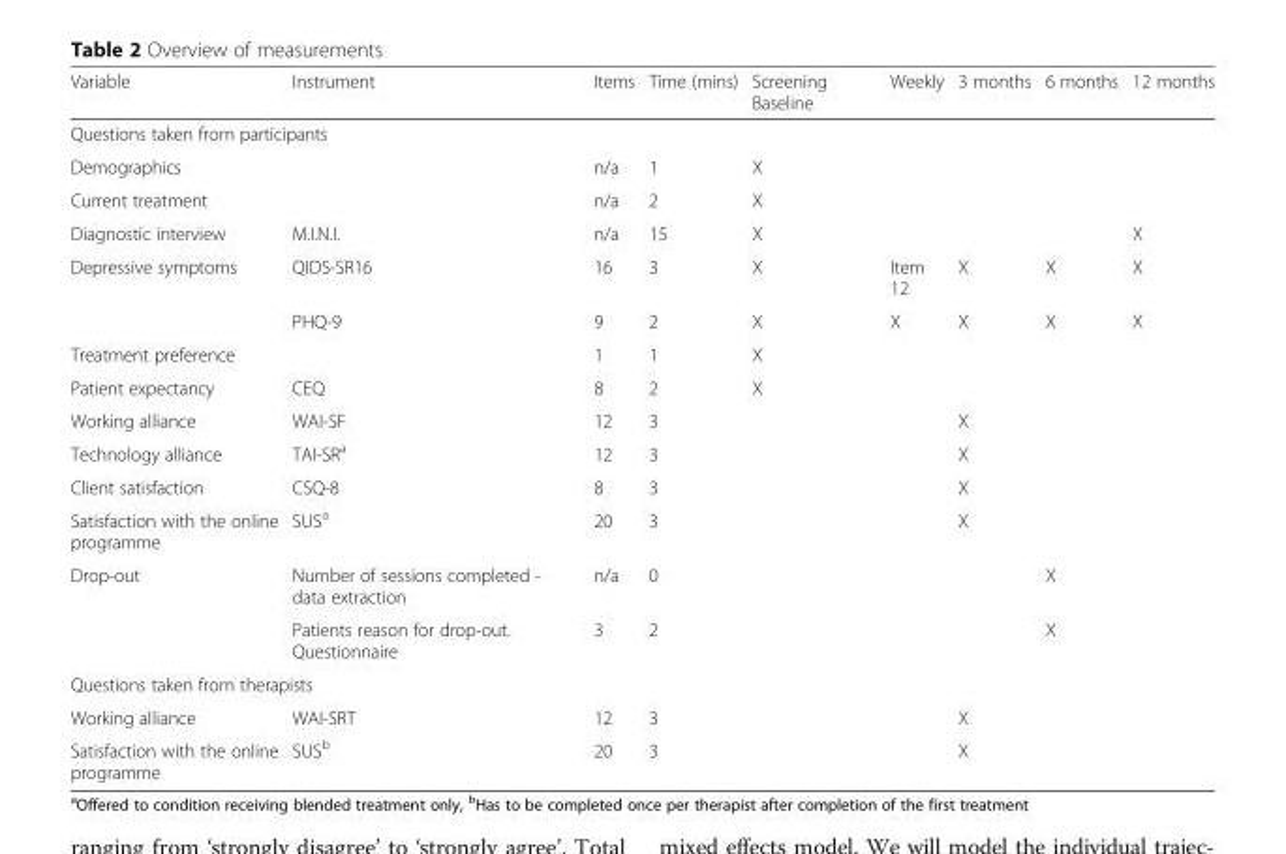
<table><thead><tr><td>Variable</td><td>Instrument</td><td>Items</td><td>Time (mins)</td><td>Screening Baseline</td><td>Weekly</td><td>3 months</td><td>6 months</td><td>12 months</td></tr></thead><tbody><tr><td colspan="9">Questions taken from participants</td></tr><tr><td>Demographics</td><td></td><td>n/a</td><td>1</td><td>X</td><td></td><td></td><td></td><td></td></tr><tr><td>Current treatment</td><td></td><td>n/a</td><td>2</td><td>X</td><td></td><td></td><td></td><td></td></tr><tr><td>Diagnostic interview</td><td>M.I.N.I.</td><td>n/a</td><td>15</td><td>X</td><td></td><td></td><td></td><td>X</td></tr><tr><td rowspan="2">Depressive symptoms</td><td>QIDS-SR16</td><td>16</td><td>3</td><td>X</td><td>Item 12</td><td>X</td><td>X</td><td>X</td></tr><tr><td>PHQ-9</td><td>9</td><td>2</td><td>X</td><td>X</td><td>X</td><td>X</td><td>X</td></tr><tr><td>Treatment preference</td><td></td><td>1</td><td>1</td><td>X</td><td></td><td></td><td></td><td></td></tr><tr><td>Patient expectancy</td><td>CEQ</td><td>8</td><td>2</td><td>X</td><td></td><td></td><td></td><td></td></tr><tr><td>Working alliance</td><td>WAI-SF</td><td>12</td><td>3</td><td></td><td></td><td>X</td><td></td><td></td></tr><tr><td>Technology alliance</td><td>TAI-SR<sup>a</sup></td><td>12</td><td>3</td><td></td><td></td><td>X</td><td></td><td></td></tr><tr><td>Client satisfaction</td><td>CSQ-8</td><td>8</td><td>3</td><td></td><td></td><td>X</td><td></td><td></td></tr><tr><td>Satisfaction with the online programme</td><td>SUS<sup>a</sup></td><td>20</td><td>3</td><td></td><td></td><td>X</td><td></td><td></td></tr><tr><td rowspan="2">Drop-out</td><td>Number of sessions completed - data extraction</td><td>n/a</td><td>0</td><td></td><td></td><td></td><td>X</td><td></td></tr><tr><td>Patients reason for drop-out. Questionnaire</td><td>3</td><td>2</td><td></td><td></td><td></td><td>X</td><td></td></tr><tr><td colspan="9">Questions taken from therapists</td></tr><tr><td>Working alliance</td><td>WAI-SRT</td><td>12</td><td>3</td><td></td><td></td><td>X</td><td></td><td></td></tr><tr><td>Satisfaction with the online programme</td><td>SUS<sup>b</sup></td><td>20</td><td>3</td><td></td><td></td><td>X</td><td></td><td></td></tr></tbody></table>